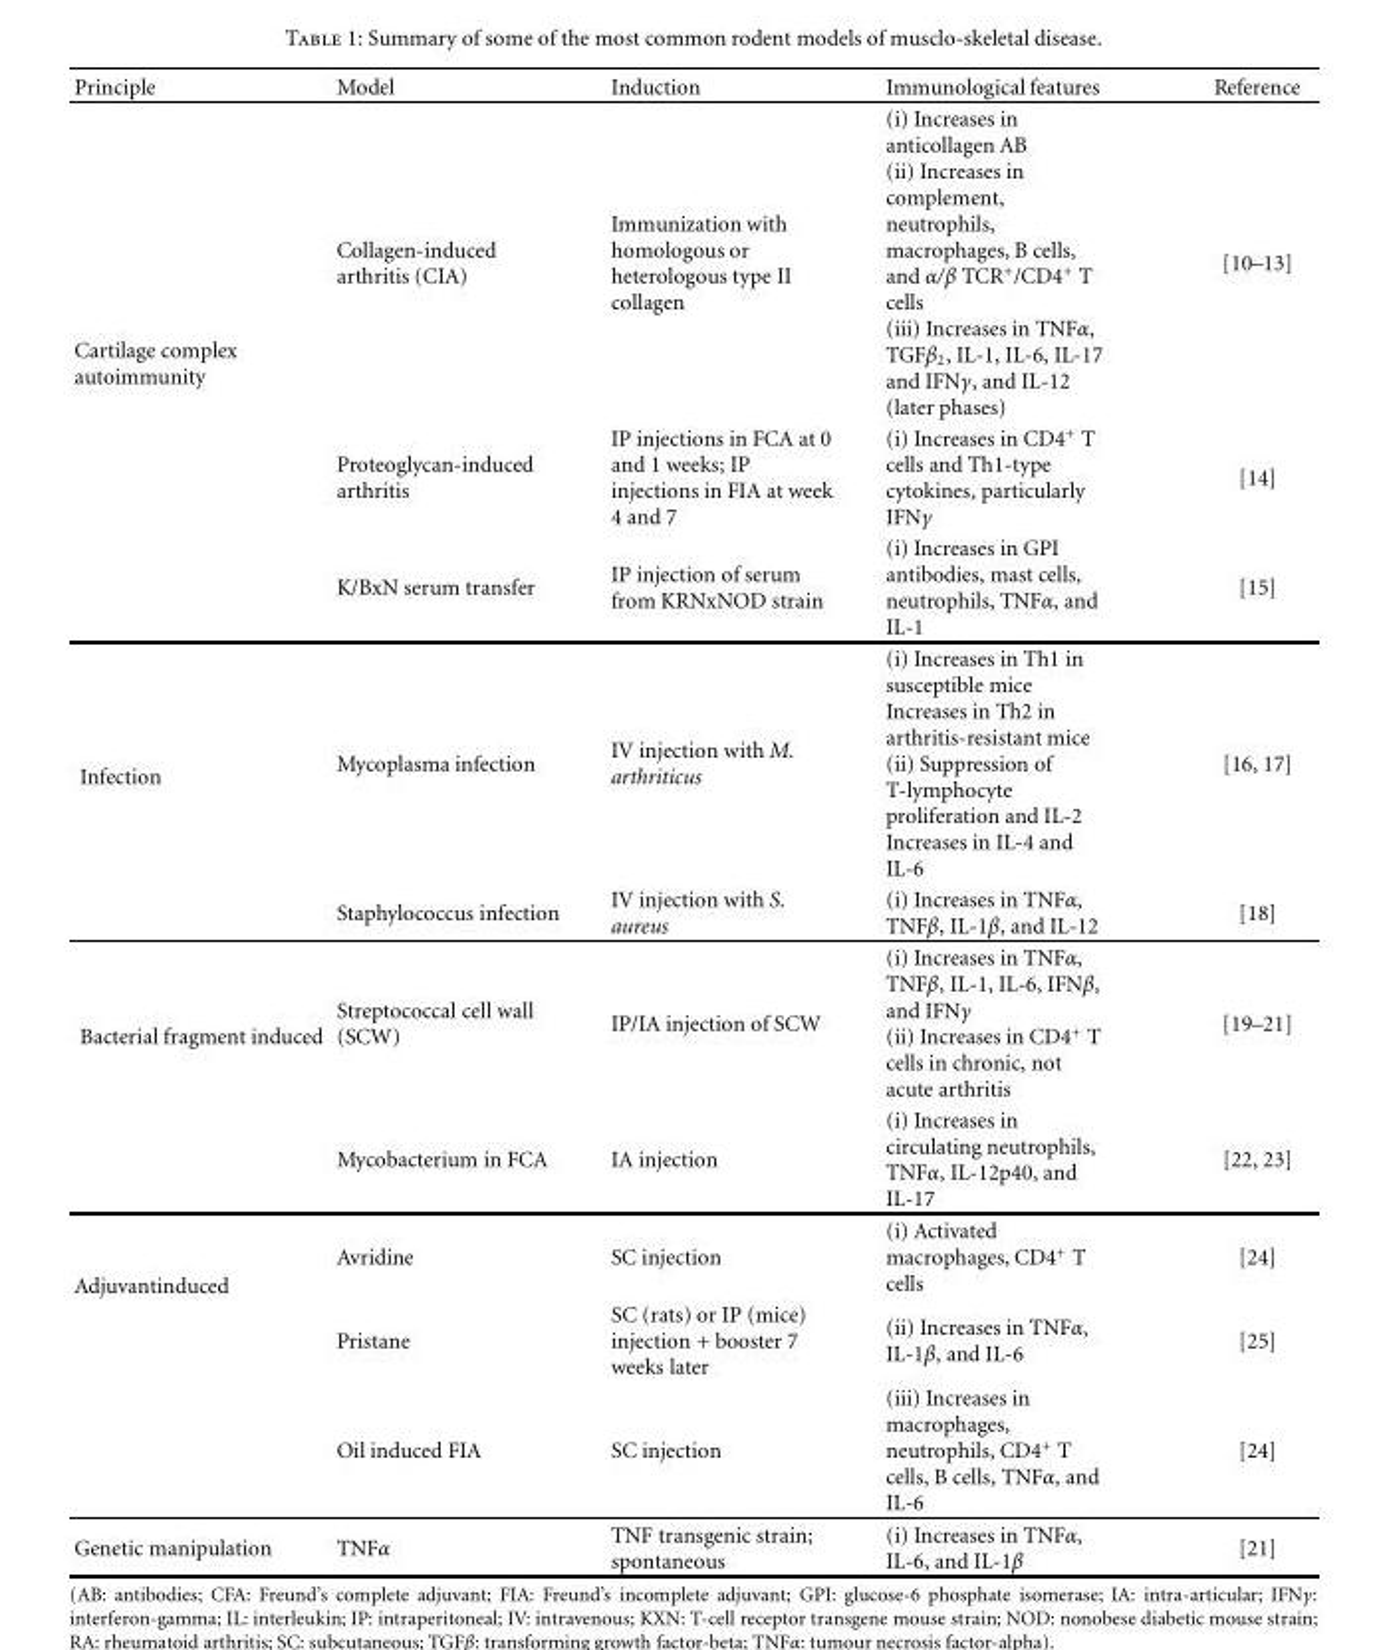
<table><thead><tr><td>Principle</td><td>Model</td><td>Induction</td><td>Immunological features</td><td>Reference</td></tr></thead><tbody><tr><td rowspan="3">Cartilage complex autoimmunity</td><td>Collagen-induced arthritis (CIA)</td><td>Immunization with homologous or heterologous type II collagen</td><td>(i) Increases in anticollagen AB (ii) Increases in complement, neutrophils, macrophages, B cells, and α/β TCR<sup>+</sup>/CD4<sup>+</sup> T cells (iii) Increases in TNFα, TGFβ<sub>2</sub>, IL-1, IL-6, IL-17 and IFNγ, and IL-12 (later phases)</td><td>[10–13]</td></tr><tr><td>Proteoglycan-induced arthritis</td><td>IP injections in FCA at 0 and 1 weeks; IP injections in FIA at week 4 and 7</td><td>(i) Increases in CD4<sup>+</sup> T cells and Th1-type cytokines, particularly IFNγ</td><td>[14]</td></tr><tr><td>K/BxN serum transfer</td><td>IP injection of serum from KRNxNOD strain</td><td>(i) Increases in GPI antibodies, mast cells, neutrophils, TNFα, and IL-1</td><td>[15]</td></tr><tr><td rowspan="2">Infection</td><td>Mycoplasma infection</td><td>IV injection with M. arthriticus</td><td>(i) Increases in Th1 in susceptible mice Increases in Th2 in arthritis-resistant mice (ii) Suppression of T-lymphocyte proliferation and IL-2 Increases in IL-4 and IL-6</td><td>[16, 17]</td></tr><tr><td>Staphylococcus infection</td><td>IV injection with S. aureus</td><td>(i) Increases in TNFα, TNFβ, IL-1β, and IL-12</td><td>[18]</td></tr><tr><td rowspan="2">Bacterial fragment induced</td><td>Streptococcal cell wall (SCW)</td><td>IP/IA injection of SCW</td><td>(i) Increases in TNFα, TNFβ, IL-1, IL-6, IFNβ, and IFNγ (ii) Increases in CD4<sup>+</sup> T cells in chronic, not acute arthritis</td><td>[19–21]</td></tr><tr><td>Mycobacterium in FCA</td><td>IA injection</td><td>(i) Increases in circulating neutrophils, TNFα, IL-12p40, and IL-17</td><td>[22, 23]</td></tr><tr><td rowspan="3">Adjuvantinduced</td><td>Avridine</td><td>SC injection</td><td>(i) Activated macrophages, CD4<sup>+</sup> T cells</td><td>[24]</td></tr><tr><td>Pristane</td><td>SC (rats) or IP (mice) injection + booster 7 weeks later</td><td>(ii) Increases in TNFα, IL-1β, and IL-6</td><td>[25]</td></tr><tr><td>Oil induced FIA</td><td>SC injection</td><td>(iii) Increases in macrophages, neutrophils, CD4<sup>+</sup> T cells, B cells, TNFα, and IL-6</td><td>[24]</td></tr><tr><td>Genetic manipulation</td><td>TNFα</td><td>TNF transgenic strain; spontaneous</td><td>(i) Increases in TNFα, IL-6, and IL-1β</td><td>[21]</td></tr></tbody></table>